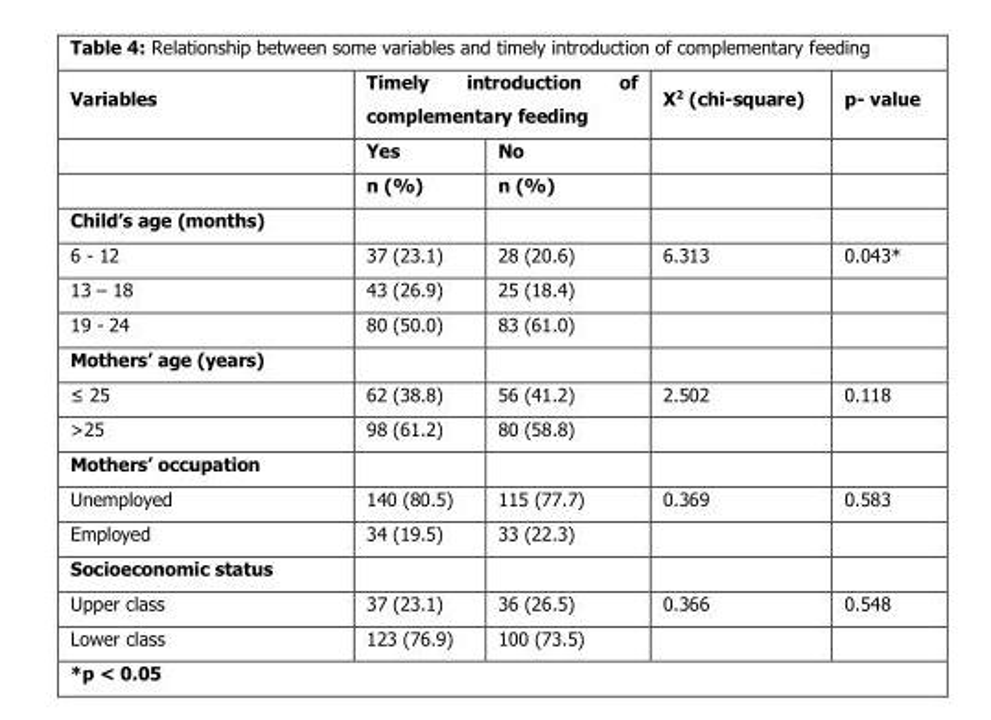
<table><thead><tr><td rowspan="3">Variables</td><td colspan="2">Timely introduction of complementary feeding</td><td rowspan="3">X<sup>2</sup> (chi-square)</td><td rowspan="3">p- value</td></tr><tr><td rowspan="2">Yes n (%)</td><td rowspan="2">No n (%)</td></tr><tr></tr></thead><tbody><tr><td colspan="5">Child’s age (months)</td></tr><tr><td>6 - 12</td><td>37 (23.1)</td><td>28 (20.6)</td><td>6.313</td><td>0.043*</td></tr><tr><td>13 – 18</td><td>43 (26.9)</td><td>25 (18.4)</td><td></td><td></td></tr><tr><td>19 - 24</td><td>80 (50.0)</td><td>83 (61.0)</td><td></td><td></td></tr><tr><td colspan="5">Mothers’ age (years)</td></tr><tr><td>≤ 25</td><td>62 (38.8)</td><td>56 (41.2)</td><td>2.502</td><td>0.118</td></tr><tr><td>&gt;25</td><td>98 (61.2)</td><td>80 (58.8)</td><td></td><td></td></tr><tr><td colspan="5">Mothers’ occupation</td></tr><tr><td>Unemployed</td><td>140 (80.5)</td><td>115 (77.7)</td><td>0.369</td><td>0.583</td></tr><tr><td>Employed</td><td>34 (19.5)</td><td>33 (22.3)</td><td></td><td></td></tr><tr><td colspan="5">Socioeconomic status</td></tr><tr><td>Upper class</td><td>37 (23.1)</td><td>36 (26.5)</td><td>0.366</td><td>0.548</td></tr><tr><td>Lower class</td><td>123 (76.9)</td><td>100 (73.5)</td><td></td><td></td></tr></tbody></table>